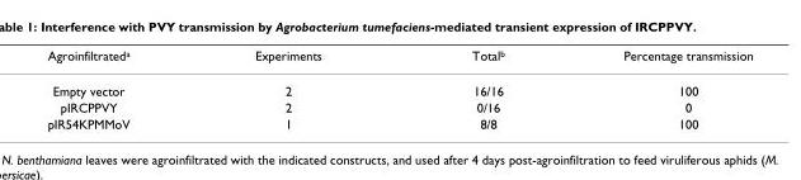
<table><thead><tr><td>Agroinfiltrated<sup>a</sup></td><td>Experiments</td><td>Total<sup>b</sup></td><td>Percentage transmission</td></tr></thead><tbody><tr><td>Empty vector</td><td>2</td><td>16/16</td><td>100</td></tr><tr><td>pIRCPPVY</td><td>2</td><td>0/16</td><td>0</td></tr><tr><td>pIR54KPMMoV</td><td>1</td><td>8/8</td><td>100</td></tr></tbody></table>